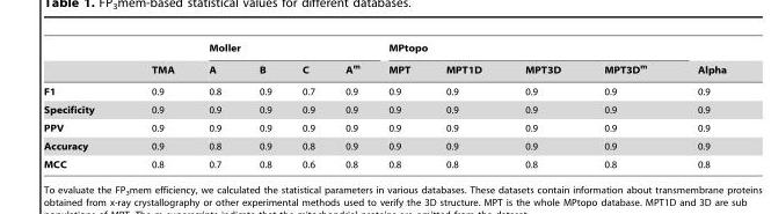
<table><thead><tr><td rowspan="2"></td><td rowspan="2">TMA</td><td colspan="4">Moller</td><td colspan="4">MPtopo</td><td rowspan="2">Alpha</td></tr><tr><td>A</td><td>B</td><td>C</td><td>A<sup>m</sup></td><td>MPT</td><td>MPT1D</td><td>MPT3D</td><td>MPT3D<sup>m</sup></td></tr></thead><tbody><tr><td>F1</td><td>0.9</td><td>0.8</td><td>0.9</td><td>0.7</td><td>0.9</td><td>0.9</td><td>0.9</td><td>0.9</td><td>0.9</td><td>0.9</td></tr><tr><td>Specificity</td><td>0.9</td><td>0.9</td><td>0.9</td><td>0.9</td><td>0.9</td><td>0.9</td><td>0.9</td><td>0.9</td><td>0.9</td><td>0.9</td></tr><tr><td>PPV</td><td>0.9</td><td>0.9</td><td>0.9</td><td>0.9</td><td>0.9</td><td>0.9</td><td>0.9</td><td>0.9</td><td>0.9</td><td>0.9</td></tr><tr><td>Accuracy</td><td>0.9</td><td>0.8</td><td>0.9</td><td>0.8</td><td>0.9</td><td>0.9</td><td>0.9</td><td>0.9</td><td>0.9</td><td>0.9</td></tr><tr><td>MCC</td><td>0.8</td><td>0.7</td><td>0.8</td><td>0.6</td><td>0.8</td><td>0.8</td><td>0.8</td><td>0.8</td><td>0.8</td><td>0.8</td></tr></tbody></table>